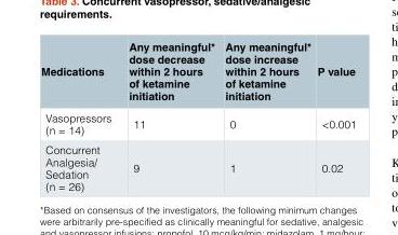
<table><thead><tr><td>Medications</td><td>Any meaningful* dose decrease within 2 hours of ketamine initiation</td><td>Any meaningful* dose increase within 2 hours of ketamine initiation</td><td>P value</td></tr></thead><tbody><tr><td>Vasopressors (n = 14)</td><td>11</td><td>0</td><td>&lt;0.001</td></tr><tr><td>Concurrent Analgesia/ Sedation (n = 26)</td><td>9</td><td>1</td><td>0.02</td></tr></tbody></table>